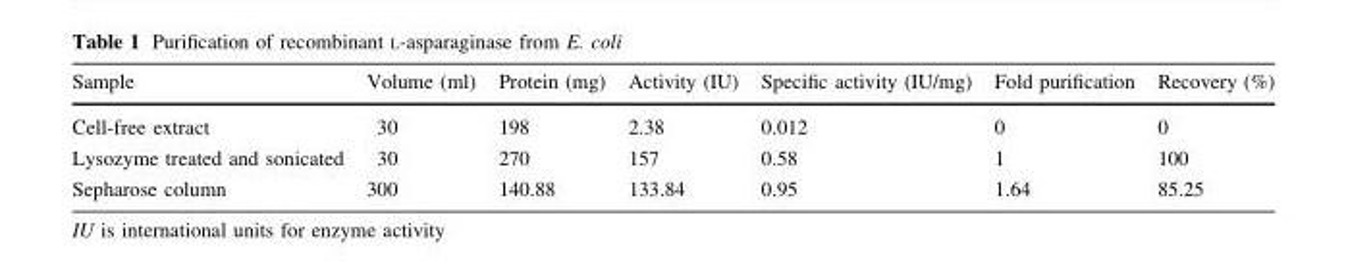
<table><thead><tr><td>Sample</td><td>Volume (ml)</td><td>Protein (mg)</td><td>Activity (IU)</td><td>Specific activity (IU/mg)</td><td>Fold purification</td><td>Recovery (%)</td></tr></thead><tbody><tr><td>Cell-free extract</td><td>30</td><td>198</td><td>2.38</td><td>0.012</td><td>0</td><td>0</td></tr><tr><td>Lysozyme treated and sonicated</td><td>30</td><td>270</td><td>157</td><td>0.58</td><td>1</td><td>100</td></tr><tr><td>Sepharose column</td><td>300</td><td>140.88</td><td>133.84</td><td>0.95</td><td>1.64</td><td>85.25</td></tr></tbody></table>